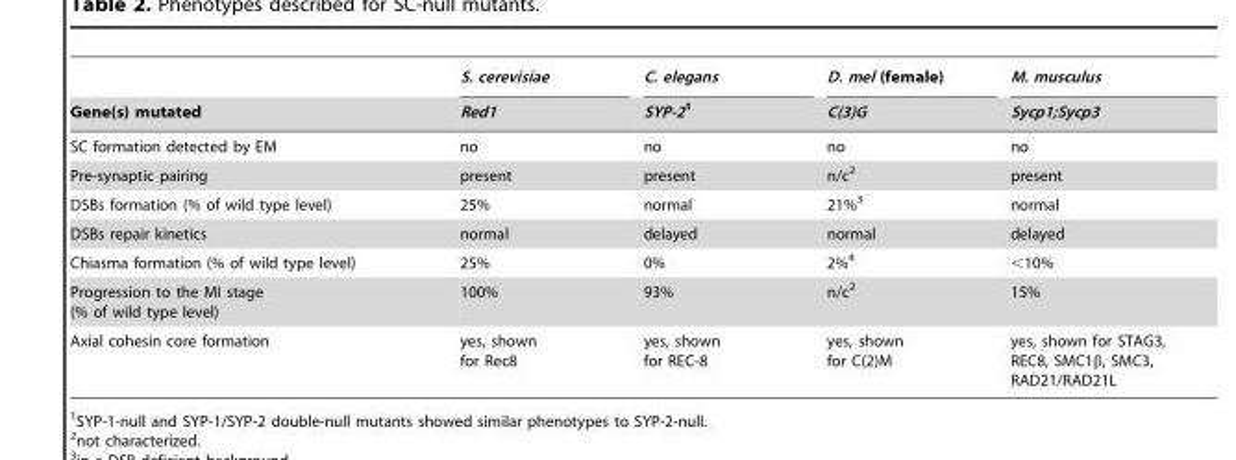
<table><thead><tr><td rowspan="2">Gene(s) mutated</td><td rowspan="2">S. cerevisiae Red1</td><td rowspan="2">C. elegans SYP-21</td><td rowspan="2">D. mel (female) C(3)G</td><td rowspan="2">M. musculus Sycp1;Sycp3</td></tr><tr></tr></thead><tbody><tr><td>SC formation detected by EM</td><td>no</td><td>no</td><td>no</td><td>no</td></tr><tr><td>Pre-synaptic pairing</td><td>present</td><td>present</td><td>n/c<sup>2</sup></td><td>present</td></tr><tr><td>DSBs formation (% of wild type level)</td><td>25%</td><td>normal</td><td>21%<sup>3</sup></td><td>normal</td></tr><tr><td>DSBs repair kinetics</td><td>normal</td><td>delayed</td><td>normal</td><td>delayed</td></tr><tr><td>Chiasma formation (% of wild type level)</td><td>25%</td><td>0%</td><td>2%<sup>4</sup></td><td>&lt;10%</td></tr><tr><td>Progression to the MI stage (% of wild type level)</td><td>100%</td><td>93%</td><td>n/c<sup>2</sup></td><td>15%</td></tr><tr><td>Axial cohesin core formation</td><td>yes, shown for Rec8</td><td>yes, shown for REC-8</td><td>yes, shown for C(2)M</td><td>yes, shown for STAG3, REC8, SMC1β, SMC3, RAD21/RAD21L</td></tr></tbody></table>